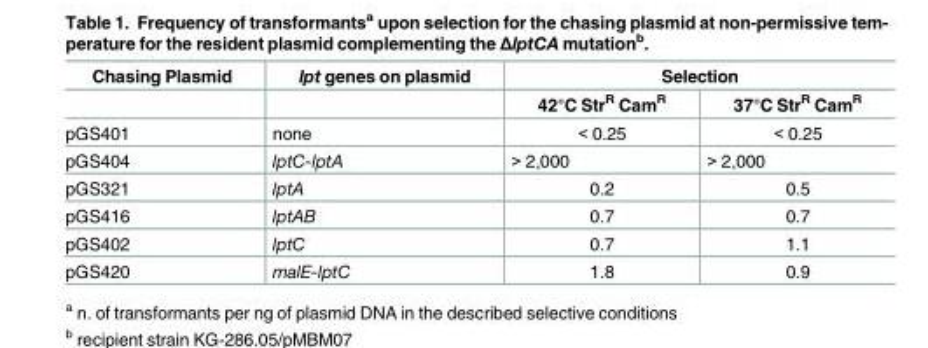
<table><thead><tr><td rowspan="2">Chasing Plasmid</td><td rowspan="2">lpt genes on plasmid</td><td colspan="2">Selection</td></tr><tr><td>42°C Str<sup>R</sup> Cam<sup>R</sup></td><td>37°C Str<sup>R</sup> Cam<sup>R</sup></td></tr></thead><tbody><tr><td>pGS401</td><td>none</td><td>&lt; 0.25</td><td>&lt; 0.25</td></tr><tr><td>pGS404</td><td>lptC-lptA</td><td>&gt; 2,000</td><td>&gt; 2,000</td></tr><tr><td>pGS321</td><td>lptA</td><td>0.2</td><td>0.5</td></tr><tr><td>pGS416</td><td>lptAB</td><td>0.7</td><td>0.7</td></tr><tr><td>pGS402</td><td>lptC</td><td>0.7</td><td>1.1</td></tr><tr><td>pGS420</td><td>malE-lptC</td><td>1.8</td><td>0.9</td></tr></tbody></table>